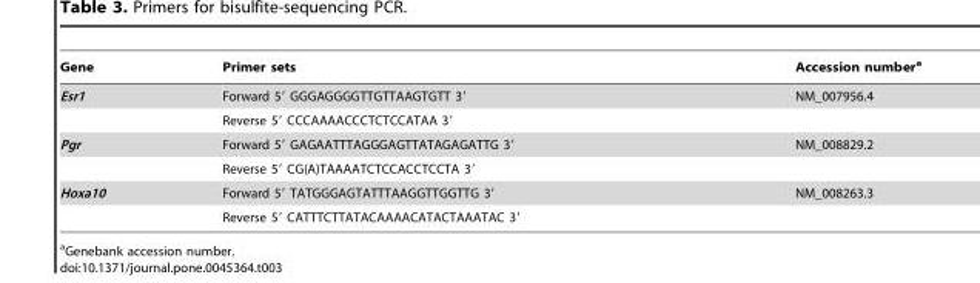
<table><thead><tr><td>Gene</td><td>Primer sets</td><td>Accession number<sup>a</sup></td></tr></thead><tbody><tr><td rowspan="2">Esr1</td><td>Forward 5′ GGGAGGGGTTGTTAAGTGTT 3′</td><td>NM_007956.4</td></tr><tr><td>Reverse 5′ CCCAAAACCCTCTCCATAA 3′</td><td></td></tr><tr><td rowspan="2">Pgr</td><td>Forward 5′ GAGAATTTAGGGAGTTATAGAGATTG 3′</td><td>NM_008829.2</td></tr><tr><td>Reverse 5′ CG(A)TAAAATCTCCACCTCCTA 3′</td><td></td></tr><tr><td rowspan="2">Hoxa10</td><td>Forward 5′ TATGGGAGTATTTAAGGTTGGTTG 3′</td><td>NM_008263.3</td></tr><tr><td>Reverse 5′ CATTTCTTATACAAAACATACTAAATAC 3′</td><td></td></tr></tbody></table>